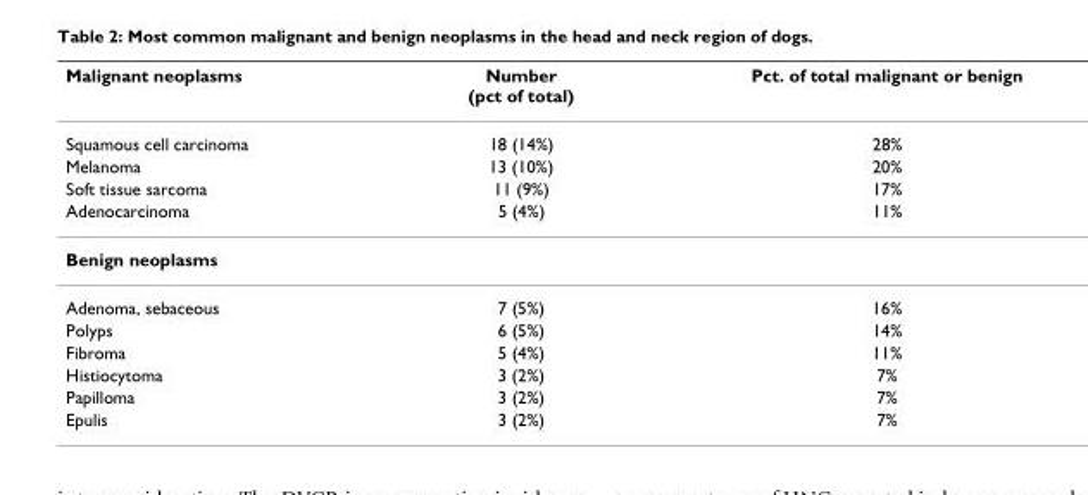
<table><thead><tr><td>Malignant neoplasms</td><td>Number (pct of total)</td><td>Pct. of total malignant or benign</td></tr></thead><tbody><tr><td>Squamous cell carcinoma</td><td>18 (14%)</td><td>28%</td></tr><tr><td>Melanoma</td><td>13 (10%)</td><td>20%</td></tr><tr><td>Soft tissue sarcoma</td><td>11 (9%)</td><td>17%</td></tr><tr><td>Adenocarcinoma</td><td>5 (4%)</td><td>11%</td></tr><tr><td colspan="3">Benign neoplasms</td></tr><tr><td>Adenoma, sebaceous</td><td>7 (5%)</td><td>16%</td></tr><tr><td>Polyps</td><td>6 (5%)</td><td>14%</td></tr><tr><td>Fibroma</td><td>5 (4%)</td><td>11%</td></tr><tr><td>Histiocytoma</td><td>3 (2%)</td><td>7%</td></tr><tr><td>Papilloma</td><td>3 (2%)</td><td>7%</td></tr><tr><td>Epulis</td><td>3 (2%)</td><td>7%</td></tr></tbody></table>